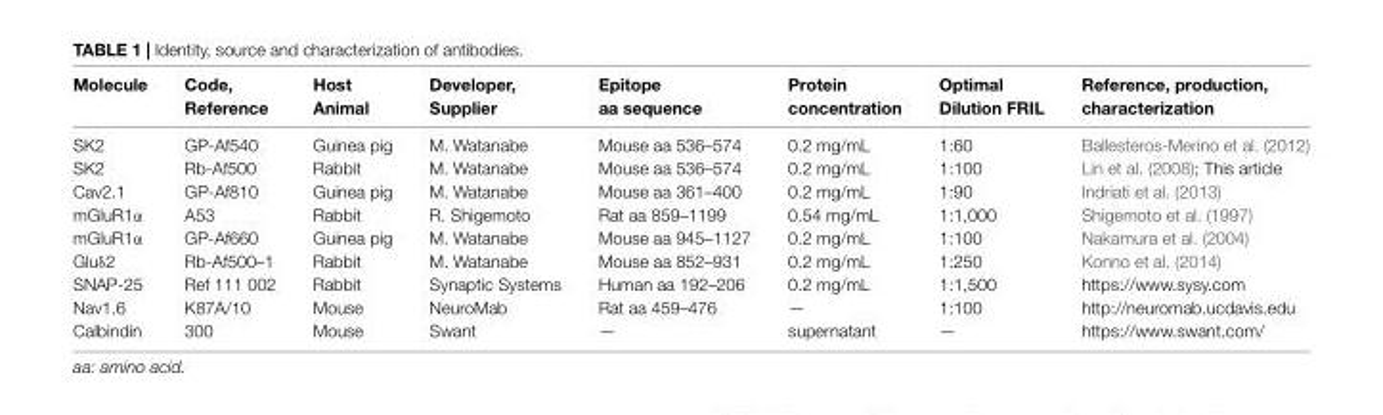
<table><thead><tr><td>Molecule</td><td>Code, Reference</td><td>Host Animal</td><td>Developer, Supplier</td><td>Epitope aa sequence</td><td>Protein concentration</td><td>Optimal Dilution FRIL</td><td>Reference, production, characterization</td></tr></thead><tbody><tr><td>SK2</td><td>GP-Af540</td><td>Guinea pig</td><td>M. Watanabe</td><td>Mouse aa 536–574</td><td>0.2 mg/mL</td><td>1:60</td><td>Ballesteros-Merino et al. (2012)</td></tr><tr><td>SK2</td><td>Rb-Af500</td><td>Rabbit</td><td>M. Watanabe</td><td>Mouse aa 536–574</td><td>0.2 mg/mL</td><td>1:100</td><td>Lin et al. (2008); This article</td></tr><tr><td>Cav2.1</td><td>GP-Af810</td><td>Guinea pig</td><td>M. Watanabe</td><td>Mouse aa 361–400</td><td>0.2 mg/mL</td><td>1:90</td><td>Indriati et al. (2013)</td></tr><tr><td>mGluR1α</td><td>A53</td><td>Rabbit</td><td>R. Shigemoto</td><td>Rat aa 859–1199</td><td>0.54 mg/mL</td><td>1:1,000</td><td>Shigemoto et al. (1997)</td></tr><tr><td>mGluR1α</td><td>GP-Af660</td><td>Guinea pig</td><td>M. Watanabe</td><td>Mouse aa 945–1127</td><td>0.2 mg/mL</td><td>1:100</td><td>Nakamura et al. (2004)</td></tr><tr><td>Gluδ2</td><td>Rb-Af500–1</td><td>Rabbit</td><td>M. Watanabe</td><td>Mouse aa 852–931</td><td>0.2 mg/mL</td><td>1:250</td><td>Konno et al. (2014)</td></tr><tr><td>SNAP-25</td><td>Ref 111 002</td><td>Rabbit</td><td>Synaptic Systems</td><td>Human aa 192–206</td><td>0.2 mg/mL</td><td>1:1,500</td><td>https://www.sysy.com</td></tr><tr><td>Nav1.6</td><td>K87A/10</td><td>Mouse</td><td>NeuroMab</td><td>Rat aa 459–476</td><td>—</td><td>1:100</td><td>http://neuromab.ucdavis.edu</td></tr><tr><td>Calbindin</td><td>300</td><td>Mouse</td><td>Swant</td><td>—</td><td>supernatant</td><td>—</td><td>https://www.swant.com/</td></tr></tbody></table>